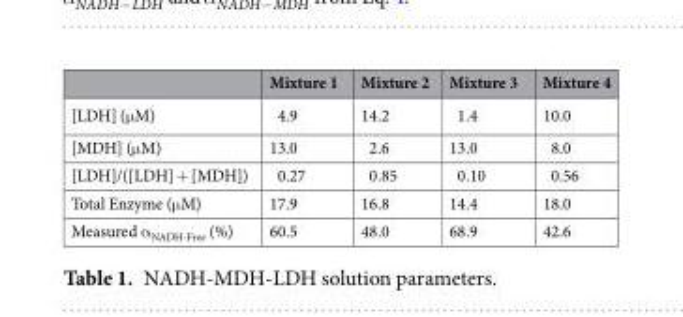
<table><thead><tr><td></td><td>Mixture 1</td><td>Mixture 2</td><td>Mixture 3</td><td>Mixture 4</td></tr></thead><tbody><tr><td>[LDH] (μM)</td><td>4.9</td><td>14.2</td><td>1.4</td><td>10.0</td></tr><tr><td>[MDH] (μM)</td><td>13.0</td><td>2.6</td><td>13.0</td><td>8.0</td></tr><tr><td>[LDH]/([LDH] + [MDH])</td><td>0.27</td><td>0.85</td><td>0.10</td><td>0.56</td></tr><tr><td>Total Enzyme (μM)</td><td>17.9</td><td>16.8</td><td>14.4</td><td>18.0</td></tr><tr><td>Measured α<sub>NADH-Free</sub> (%)</td><td>60.5</td><td>48.0</td><td>68.9</td><td>42.6</td></tr></tbody></table>